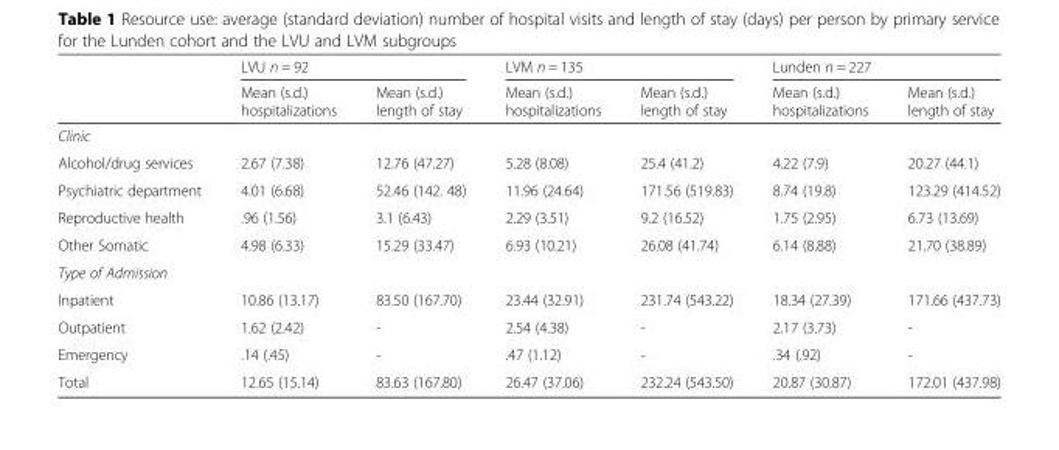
<table><thead><tr><td rowspan="2"></td><td colspan="2">LVU n = 92</td><td colspan="2">LVM n = 135</td><td colspan="2">Lunden n = 227</td></tr><tr><td>Mean (s.d.) hospitalizations</td><td>Mean (s.d.) length of stay</td><td>Mean (s.d.) hospitalizations</td><td>Mean (s.d.) length of stay</td><td>Mean (s.d.) hospitalizations</td><td>Mean (s.d.) length of stay</td></tr></thead><tbody><tr><td colspan="7">Clinic</td></tr><tr><td>Alcohol/drug services</td><td>2.67 (7.38)</td><td>12.76 (47.27)</td><td>5.28 (8.08)</td><td>25.4 (41.2)</td><td>4.22 (7.9)</td><td>20.27 (44.1)</td></tr><tr><td>Psychiatric department</td><td>4.01 (6.68)</td><td>52.46 (142. 48)</td><td>11.96 (24.64)</td><td>171.56 (519.83)</td><td>8.74 (19.8)</td><td>123.29 (414.52)</td></tr><tr><td>Reproductive health</td><td>.96 (1.56)</td><td>3.1 (6.43)</td><td>2.29 (3.51)</td><td>9.2 (16.52)</td><td>1.75 (2.95)</td><td>6.73 (13.69)</td></tr><tr><td>Other Somatic</td><td>4.98 (6.33)</td><td>15.29 (33.47)</td><td>6.93 (10.21)</td><td>26.08 (41.74)</td><td>6.14 (8.88)</td><td>21.70 (38.89)</td></tr><tr><td colspan="7">Type of Admission</td></tr><tr><td>Inpatient</td><td>10.86 (13.17)</td><td>83.50 (167.70)</td><td>23.44 (32.91)</td><td>231.74 (543.22)</td><td>18.34 (27.39)</td><td>171.66 (437.73)</td></tr><tr><td>Outpatient</td><td>1.62 (2.42)</td><td>-</td><td>2.54 (4.38)</td><td>-</td><td>2.17 (3.73)</td><td>-</td></tr><tr><td>Emergency</td><td>.14 (.45)</td><td>-</td><td>.47 (1.12)</td><td>-</td><td>.34 (.92)</td><td>-</td></tr><tr><td>Total</td><td>12.65 (15.14)</td><td>83.63 (167.80)</td><td>26.47 (37.06)</td><td>232.24 (543.50)</td><td>20.87 (30.87)</td><td>172.01 (437.98)</td></tr></tbody></table>